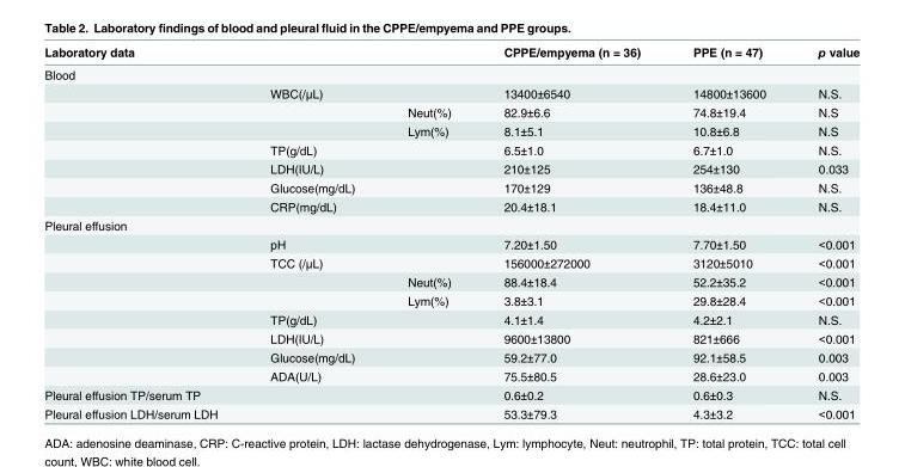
<table><thead><tr><td>Laboratory data</td><td></td><td></td><td>CPPE/empyema (n = 36)</td><td>PPE (n = 47)</td><td>p value</td></tr></thead><tbody><tr><td colspan="6">Blood</td></tr><tr><td></td><td>WBC(/μL)</td><td></td><td>13400±6540</td><td>14800±13600</td><td>N.S.</td></tr><tr><td></td><td></td><td>Neut(%)</td><td>82.9±6.6</td><td>74.8±19.4</td><td>N.S</td></tr><tr><td></td><td></td><td>Lym(%)</td><td>8.1±5.1</td><td>10.8±6.8</td><td>N.S</td></tr><tr><td></td><td>TP(g/dL)</td><td></td><td>6.5±1.0</td><td>6.7±1.0</td><td>N.S.</td></tr><tr><td></td><td>LDH(IU/L)</td><td></td><td>210±125</td><td>254±130</td><td>0.033</td></tr><tr><td></td><td>Glucose(mg/dL)</td><td></td><td>170±129</td><td>136±48.8</td><td>N.S.</td></tr><tr><td></td><td>CRP(mg/dL)</td><td></td><td>20.4±18.1</td><td>18.4±11.0</td><td>N.S.</td></tr><tr><td colspan="6">Pleural effusion</td></tr><tr><td></td><td>pH</td><td></td><td>7.20±1.50</td><td>7.70±1.50</td><td>&lt;0.001</td></tr><tr><td></td><td>TCC (/μL)</td><td></td><td>156000±272000</td><td>3120±5010</td><td>&lt;0.001</td></tr><tr><td></td><td></td><td>Neut(%)</td><td>88.4±18.4</td><td>52.2±35.2</td><td>&lt;0.001</td></tr><tr><td></td><td></td><td>Lym(%)</td><td>3.8±3.1</td><td>29.8±28.4</td><td>&lt;0.001</td></tr><tr><td></td><td>TP(g/dL)</td><td></td><td>4.1±1.4</td><td>4.2±2.1</td><td>N.S.</td></tr><tr><td></td><td>LDH(IU/L)</td><td></td><td>9600±13800</td><td>821±666</td><td>&lt;0.001</td></tr><tr><td></td><td>Glucose(mg/dL)</td><td></td><td>59.2±77.0</td><td>92.1±58.5</td><td>0.003</td></tr><tr><td></td><td>ADA(U/L)</td><td></td><td>75.5±80.5</td><td>28.6±23.0</td><td>0.003</td></tr><tr><td>Pleural effusion TP/serum TP</td><td></td><td></td><td>0.6±0.2</td><td>0.6±0.3</td><td>N.S.</td></tr><tr><td>Pleural effusion LDH/serum LDH</td><td></td><td></td><td>53.3±79.3</td><td>4.3±3.2</td><td>&lt;0.001</td></tr></tbody></table>